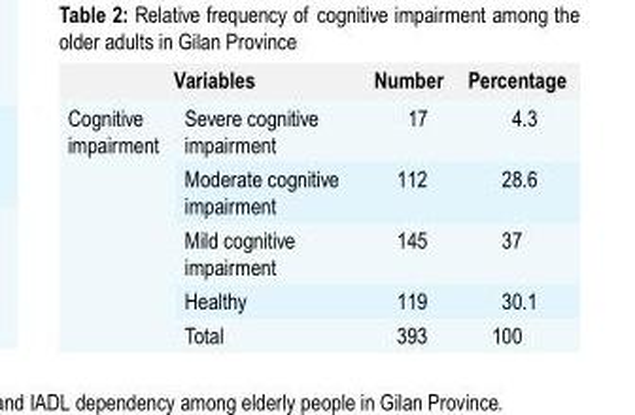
<table><thead><tr><td></td><td>Variables</td><td>Number</td><td>Percentage</td></tr></thead><tbody><tr><td rowspan="5">Cognitive impairment</td><td>Severe cognitive impairment</td><td>17</td><td>4.3</td></tr><tr><td>Moderate cognitive impairment</td><td>112</td><td>28.6</td></tr><tr><td>Mild cognitive impairment</td><td>145</td><td>37</td></tr><tr><td>Healthy</td><td>119</td><td>30.1</td></tr><tr><td>Total</td><td>393</td><td>100</td></tr></tbody></table>